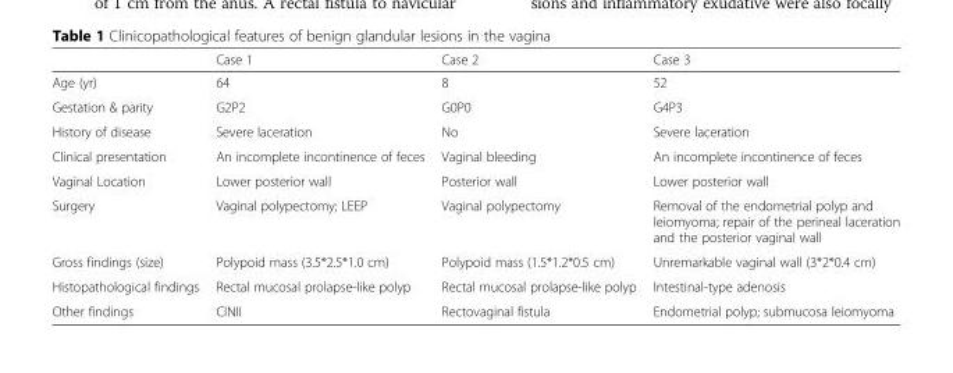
<table><thead><tr><td></td><td>Case 1</td><td>Case 2</td><td>Case 3</td></tr></thead><tbody><tr><td>Age (yr)</td><td>64</td><td>8</td><td>52</td></tr><tr><td>Gestation &amp; parity</td><td>G2P2</td><td>G0P0</td><td>G4P3</td></tr><tr><td>History of disease</td><td>Severe laceration</td><td>No</td><td>Severe laceration</td></tr><tr><td>Clinical presentation</td><td>An incomplete incontinence of feces</td><td>Vaginal bleeding</td><td>An incomplete incontinence of feces</td></tr><tr><td>Vaginal Location</td><td>Lower posterior wall</td><td>Posterior wall</td><td>Lower posterior wall</td></tr><tr><td>Surgery</td><td>Vaginal polypectomy; LEEP</td><td>Vaginal polypectomy</td><td>Removal of the endometrial polyp and leiomyoma; repair of the perineal laceration and the posterior vaginal wall</td></tr><tr><td>Gross findings (size)</td><td>Polypoid mass (3.5*2.5*1.0 cm)</td><td>Polypoid mass (1.5*1.2*0.5 cm)</td><td>Unremarkable vaginal wall (3*2*0.4 cm)</td></tr><tr><td>Histopathological findings</td><td>Rectal mucosal prolapse-like polyp</td><td>Rectal mucosal prolapse-like polyp</td><td>Intestinal-type adenosis</td></tr><tr><td>Other findings</td><td>CINII</td><td>Rectovaginal fistula</td><td>Endometrial polyp; submucosa leiomyoma</td></tr></tbody></table>